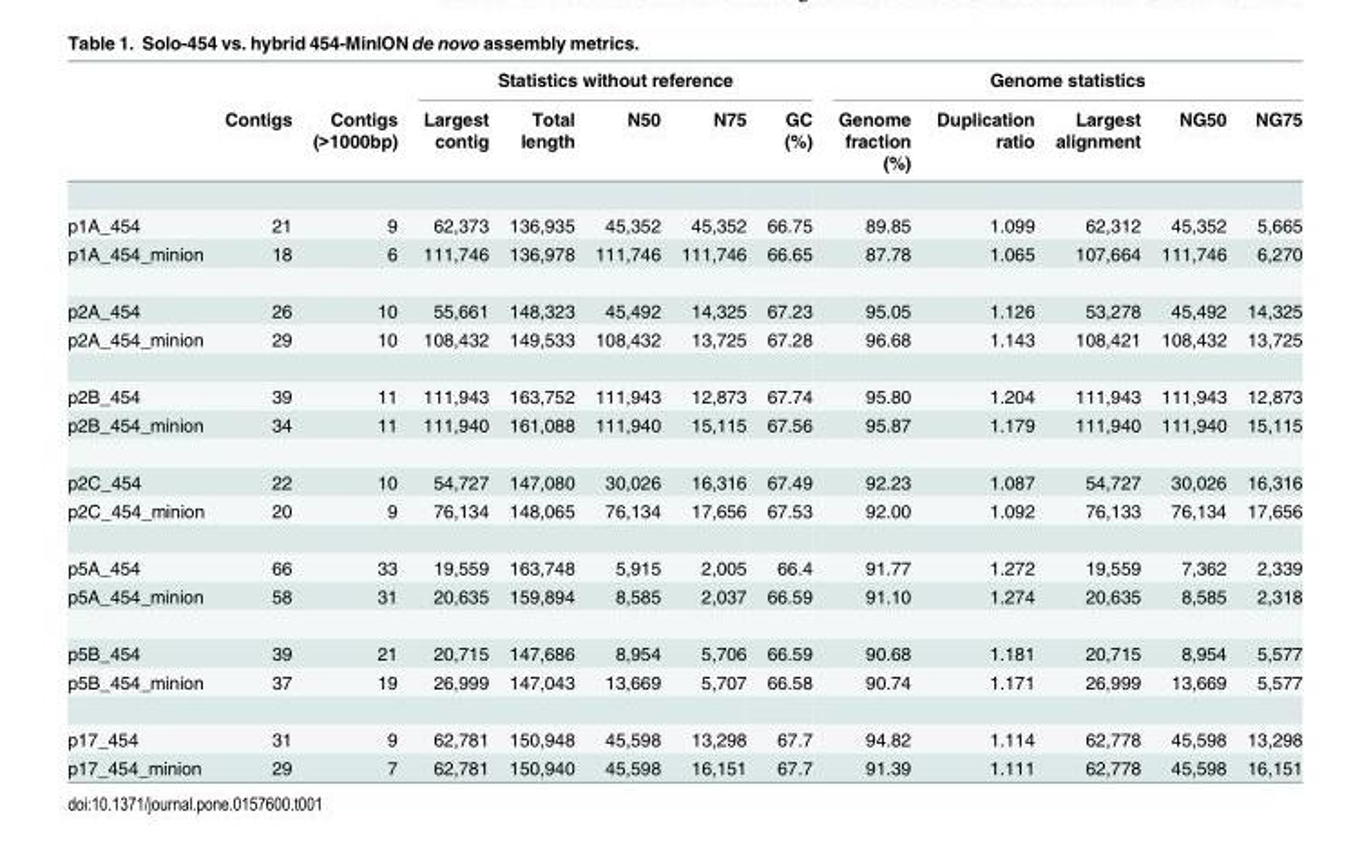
<table><thead><tr><td rowspan="2"></td><td rowspan="2">Contigs</td><td rowspan="2">Contigs (&gt;1000bp)</td><td colspan="5">Statistics without reference</td><td colspan="5">Genome statistics</td></tr><tr><td>Largest contig</td><td>Total length</td><td>N50</td><td>N75</td><td>GC (%)</td><td>Genome fraction (%)</td><td>Duplication ratio</td><td>Largest alignment</td><td>NG50</td><td>NG75</td></tr></thead><tbody><tr><td>p1A_454</td><td>21</td><td>9</td><td>62,373</td><td>136,935</td><td>45,352</td><td>45,352</td><td>66.75</td><td>89.85</td><td>1.099</td><td>62,312</td><td>45,352</td><td>5,665</td></tr><tr><td>p1A_454_minion</td><td>18</td><td>6</td><td>111,746</td><td>136,978</td><td>111,746</td><td>111,746</td><td>66.65</td><td>87.78</td><td>1.065</td><td>107,664</td><td>111,746</td><td>6,270</td></tr><tr><td>p2A_454</td><td>26</td><td>10</td><td>55,661</td><td>148,323</td><td>45,492</td><td>14,325</td><td>67.23</td><td>95.05</td><td>1.126</td><td>53,278</td><td>45,492</td><td>14,325</td></tr><tr><td>p2A_454_minion</td><td>29</td><td>10</td><td>108,432</td><td>149,533</td><td>108,432</td><td>13,725</td><td>67.28</td><td>96.68</td><td>1.143</td><td>108,421</td><td>108,432</td><td>13,725</td></tr><tr><td>p2B_454</td><td>39</td><td>11</td><td>111,943</td><td>163,752</td><td>111,943</td><td>12,873</td><td>67.74</td><td>95.80</td><td>1.204</td><td>111,943</td><td>111,943</td><td>12,873</td></tr><tr><td>p2B_454_minion</td><td>34</td><td>11</td><td>111,940</td><td>161,088</td><td>111,940</td><td>15,115</td><td>67.56</td><td>95.87</td><td>1.179</td><td>111,940</td><td>111,940</td><td>15,115</td></tr><tr><td>p2C_454</td><td>22</td><td>10</td><td>54,727</td><td>147,080</td><td>30,026</td><td>16,316</td><td>67.49</td><td>92.23</td><td>1.087</td><td>54,727</td><td>30,026</td><td>16,316</td></tr><tr><td>p2C_454_minion</td><td>20</td><td>9</td><td>76,134</td><td>148,065</td><td>76,134</td><td>17,656</td><td>67.53</td><td>92.00</td><td>1.092</td><td>76,133</td><td>76,134</td><td>17,656</td></tr><tr><td>p5A_454</td><td>66</td><td>33</td><td>19,559</td><td>163,748</td><td>5,915</td><td>2,005</td><td>66.4</td><td>91.77</td><td>1.272</td><td>19,559</td><td>7,362</td><td>2,339</td></tr><tr><td>p5A_454_minion</td><td>58</td><td>31</td><td>20,635</td><td>159,894</td><td>8,585</td><td>2,037</td><td>66.59</td><td>91.10</td><td>1.274</td><td>20,635</td><td>8,585</td><td>2,318</td></tr><tr><td>p5B_454</td><td>39</td><td>21</td><td>20,715</td><td>147,686</td><td>8,954</td><td>5,706</td><td>66.59</td><td>90.68</td><td>1.181</td><td>20,715</td><td>8,954</td><td>5,577</td></tr><tr><td>p5B_454_minion</td><td>37</td><td>19</td><td>26,999</td><td>147,043</td><td>13,669</td><td>5,707</td><td>66.58</td><td>90.74</td><td>1.171</td><td>26,999</td><td>13,669</td><td>5,577</td></tr><tr><td>p17_454</td><td>31</td><td>9</td><td>62,781</td><td>150,948</td><td>45,598</td><td>13,298</td><td>67.7</td><td>94.82</td><td>1.114</td><td>62,778</td><td>45,598</td><td>13,298</td></tr><tr><td>p17_454_minion</td><td>29</td><td>7</td><td>62,781</td><td>150,940</td><td>45,598</td><td>16,151</td><td>67.7</td><td>91.39</td><td>1.111</td><td>62,778</td><td>45,598</td><td>16,151</td></tr></tbody></table>